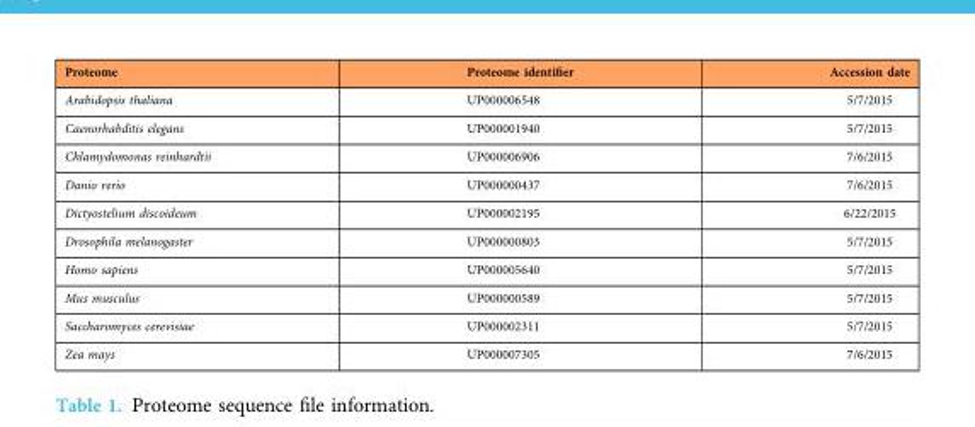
<table><thead><tr><td>Proteome</td><td>Proteome identifier</td><td>Accession date</td></tr></thead><tbody><tr><td>Arabidopsis thaliana</td><td>UP000006548</td><td>5/7/2015</td></tr><tr><td>Caenorhabditis elegans</td><td>UP000001940</td><td>5/7/2015</td></tr><tr><td>Chlamydomonas reinhardtii</td><td>UP000006906</td><td>7/6/2015</td></tr><tr><td>Danio rerio</td><td>UP000000437</td><td>7/6/2015</td></tr><tr><td>Dictyostelium discoideum</td><td>UP000002195</td><td>6/22/2015</td></tr><tr><td>Drosophila melanogaster</td><td>UP000000803</td><td>5/7/2015</td></tr><tr><td>Homo sapiens</td><td>UP000005640</td><td>5/7/2015</td></tr><tr><td>Mus musculus</td><td>UP000000589</td><td>5/7/2015</td></tr><tr><td>Saccharomyces cerevisiae</td><td>UP000002311</td><td>5/7/2015</td></tr><tr><td>Zea mays</td><td>UP000007305</td><td>7/6/2015</td></tr></tbody></table>